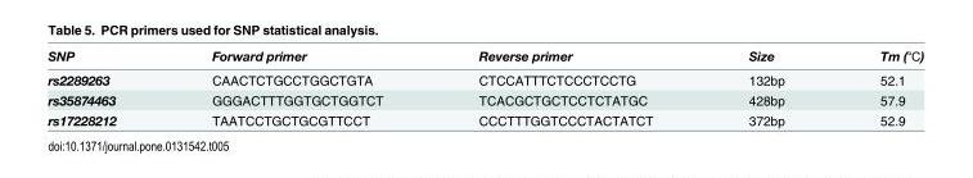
<table><thead><tr><td>SNP</td><td>Forward primer</td><td>Reverse primer</td><td>Size</td><td>Tm (℃)</td></tr></thead><tbody><tr><td>rs2289263</td><td>CAACTCTGCCTGGCTGTA</td><td>CTCCATTTCTCCCTCCTG</td><td>132bp</td><td>52.1</td></tr><tr><td>rs35874463</td><td>GGGACTTTGGTGCTGGTCT</td><td>TCACGCTGCTCCTCTATGC</td><td>428bp</td><td>57.9</td></tr><tr><td>rs17228212</td><td>TAATCCTGCTGCGTTCCT</td><td>CCCTTTGGTCCCTACTATCT</td><td>372bp</td><td>52.9</td></tr></tbody></table>